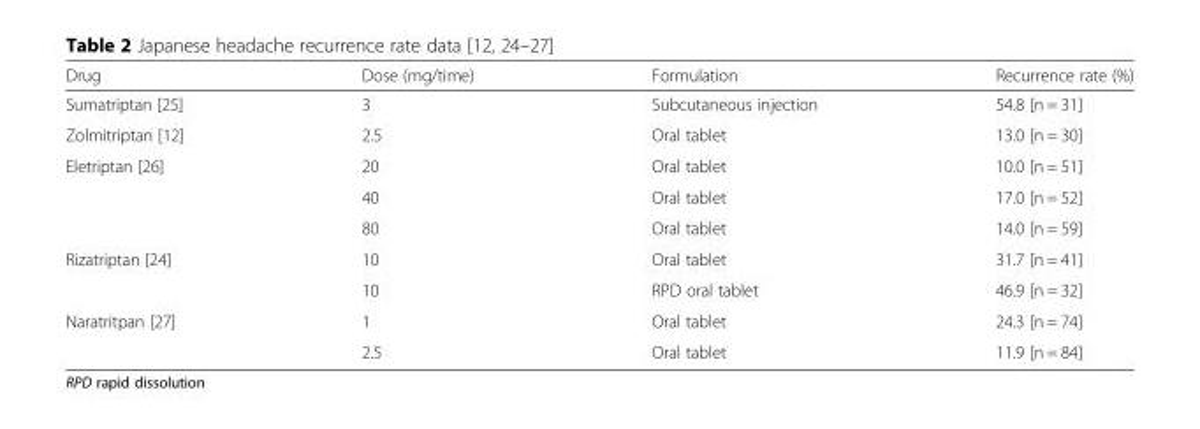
<table><thead><tr><td>Drug</td><td>Dose (mg/time)</td><td>Formulation</td><td>Recurrence rate (%)</td></tr></thead><tbody><tr><td>Sumatriptan [25]</td><td>3</td><td>Subcutaneous injection</td><td>54.8 [n = 31]</td></tr><tr><td>Zolmitriptan [12]</td><td>2.5</td><td>Oral tablet</td><td>13.0 [n = 30]</td></tr><tr><td rowspan="3">Eletriptan [26]</td><td>20</td><td>Oral tablet</td><td>10.0 [n = 51]</td></tr><tr><td>40</td><td>Oral tablet</td><td>17.0 [n = 52]</td></tr><tr><td>80</td><td>Oral tablet</td><td>14.0 [n = 59]</td></tr><tr><td rowspan="2">Rizatriptan [24]</td><td>10</td><td>Oral tablet</td><td>31.7 [n = 41]</td></tr><tr><td>10</td><td>RPD oral tablet</td><td>46.9 [n = 32]</td></tr><tr><td rowspan="2">Naratritpan [27]</td><td>1</td><td>Oral tablet</td><td>24.3 [n = 74]</td></tr><tr><td>2.5</td><td>Oral tablet</td><td>11.9 [n = 84]</td></tr></tbody></table>